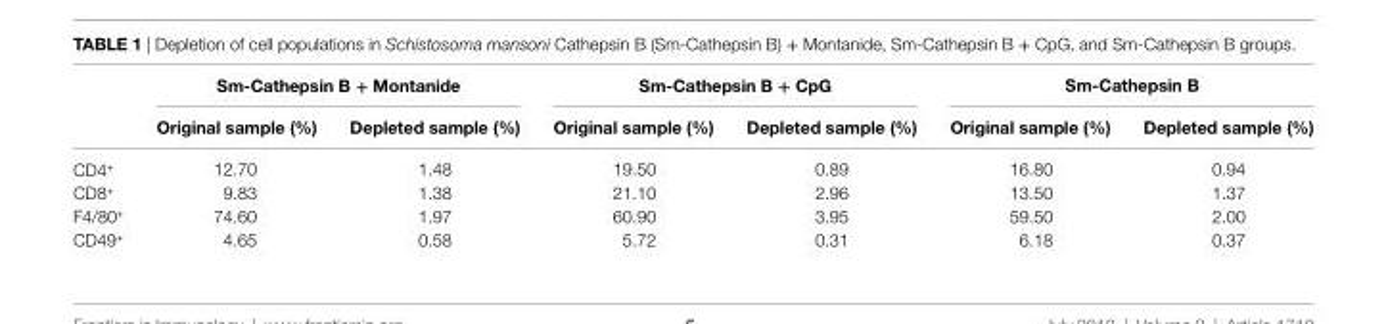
<table><thead><tr><td rowspan="2"></td><td colspan="2">sm-cathepsin B + Montanide</td><td colspan="2">sm-cathepsin B + cpg</td><td colspan="2">sm-cathepsin B</td></tr><tr><td>Original sample (%)</td><td>Depleted sample (%)</td><td>Original sample (%)</td><td>Depleted sample (%)</td><td>Original sample (%)</td><td>Depleted sample (%)</td></tr></thead><tbody><tr><td>CD4<sup>+</sup></td><td>12.70</td><td>1.48</td><td>19.50</td><td>0.89</td><td>16.80</td><td>0.94</td></tr><tr><td>CD8<sup>+</sup></td><td>9.83</td><td>1.38</td><td>21.10</td><td>2.96</td><td>13.50</td><td>1.37</td></tr><tr><td>F4/80<sup>+</sup></td><td>74.60</td><td>1.97</td><td>60.90</td><td>3.95</td><td>59.50</td><td>2.00</td></tr><tr><td>CD49<sup>+</sup></td><td>4.65</td><td>0.58</td><td>5.72</td><td>0.31</td><td>6.18</td><td>0.37</td></tr></tbody></table>